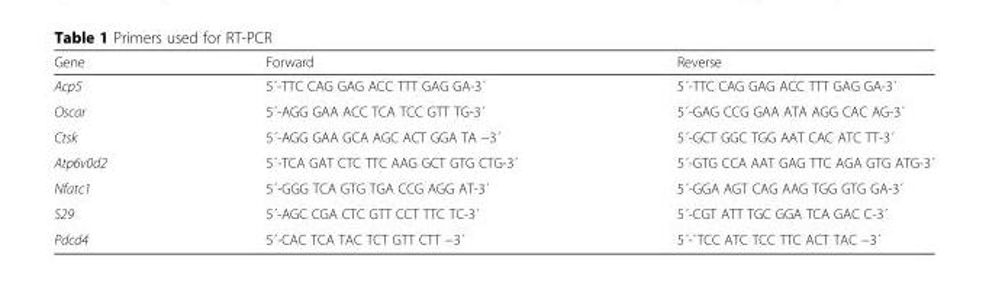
<table><thead><tr><td>Gene</td><td>Forward</td><td>Reverse</td></tr></thead><tbody><tr><td>Acp5</td><td>5´-TTC CAG GAG ACC TTT GAG GA-3´</td><td>5´-TTC CAG GAG ACC TTT GAG GA-3´</td></tr><tr><td>Oscar</td><td>5´-AGG GAA ACC TCA TCC GTT TG-3´</td><td>5´-GAG CCG GAA ATA AGG CAC AG-3´</td></tr><tr><td>Ctsk</td><td>5´-AGG GAA GCA AGC ACT GGA TA −3´</td><td>5´-GCT GGC TGG AAT CAC ATC TT-3´</td></tr><tr><td>Atp6v0d2</td><td>5´-TCA GAT CTC TTC AAG GCT GTG CTG-3´</td><td>5´-GTG CCA AAT GAG TTC AGA GTG ATG-3´</td></tr><tr><td>Nfatc1</td><td>5´-GGG TCA GTG TGA CCG AGG AT-3´</td><td>5´-GGA AGT CAG AAG TGG GTG GA-3´</td></tr><tr><td>S29</td><td>5´-AGC CGA CTC GTT CCT TTC TC-3´</td><td>5´-CGT ATT TGC GGA TCA GAC C-3´</td></tr><tr><td>Pdcd4</td><td>5´-CAC TCA TAC TCT GTT CTT −3´</td><td>5´-`TCC ATC TCC TTC ACT TAC −3´</td></tr></tbody></table>